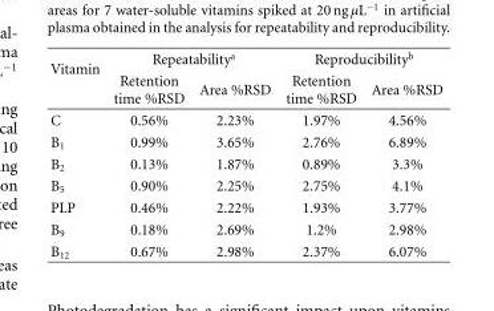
<table><thead><tr><td rowspan="2">Vitamin</td><td colspan="2">Repeatability<sup>a</sup></td><td colspan="2">Reproducibility<sup>b</sup></td></tr><tr><td>Retention time %RSD</td><td>Area %RSD</td><td>Retention time %RSD</td><td>Area %RSD</td></tr></thead><tbody><tr><td>C</td><td>0.56%</td><td>2.23%</td><td>1.97%</td><td>4.56%</td></tr><tr><td>B<sub>1</sub></td><td>0.99%</td><td>3.65%</td><td>2.76%</td><td>6.89%</td></tr><tr><td>B<sub>2</sub></td><td>0.13%</td><td>1.87%</td><td>0.89%</td><td>3.3%</td></tr><tr><td>B<sub>5</sub></td><td>0.90%</td><td>2.25%</td><td>2.75%</td><td>4.1%</td></tr><tr><td>PLP</td><td>0.46%</td><td>2.22%</td><td>1.93%</td><td>3.77%</td></tr><tr><td>B<sub>9</sub></td><td>0.18%</td><td>2.69%</td><td>1.2%</td><td>2.98%</td></tr><tr><td>B<sub>12</sub></td><td>0.67%</td><td>2.98%</td><td>2.37%</td><td>6.07%</td></tr></tbody></table>